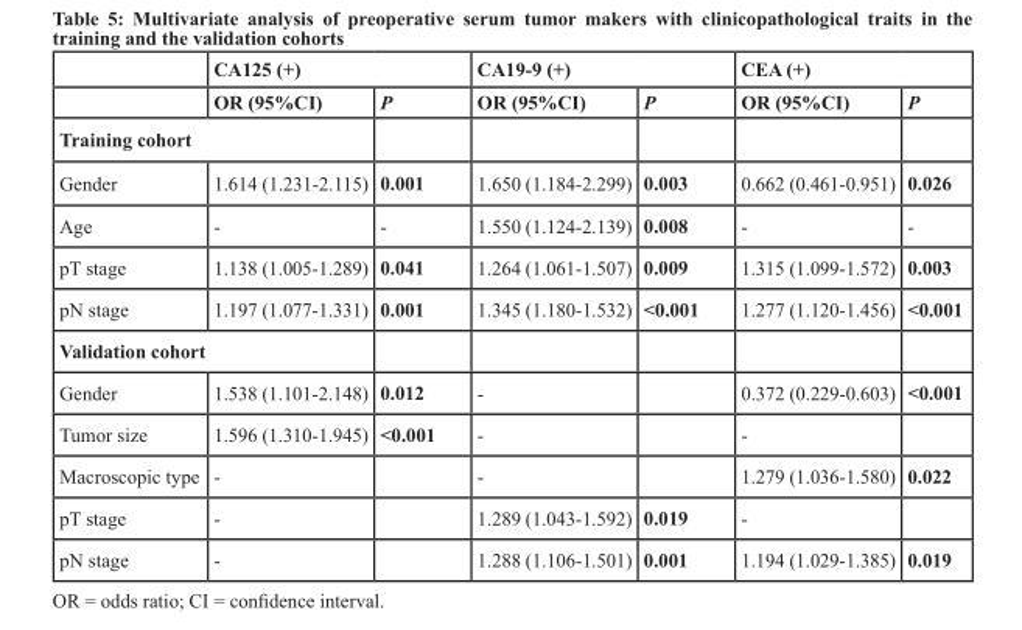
<table><thead><tr><td rowspan="2"></td><td colspan="2">cA125 (+)</td><td colspan="2">cA19-9 (+)</td><td colspan="2">cEA (+)</td></tr><tr><td>Or (95%cI)</td><td>P</td><td>Or (95%cI)</td><td>P</td><td>Or (95%cI)</td><td>P</td></tr></thead><tbody><tr><td colspan="7">training cohort</td></tr><tr><td>Gender</td><td>1.614 (1.231-2.115)</td><td>0.001</td><td>1.650 (1.184-2.299)</td><td>0.003</td><td>0.662 (0.461-0.951)</td><td>0.026</td></tr><tr><td>Age</td><td>-</td><td>-</td><td>1.550 (1.124-2.139)</td><td>0.008</td><td>-</td><td>-</td></tr><tr><td>pT stage</td><td>1.138 (1.005-1.289)</td><td>0.041</td><td>1.264 (1.061-1.507)</td><td>0.009</td><td>1.315 (1.099-1.572)</td><td>0.003</td></tr><tr><td>pN stage</td><td>1.197 (1.077-1.331)</td><td>0.001</td><td>1.345 (1.180-1.532)</td><td>&lt;0.001</td><td>1.277 (1.120-1.456)</td><td>&lt;0.001</td></tr><tr><td colspan="7">Validation cohort</td></tr><tr><td>Gender</td><td>1.538 (1.101-2.148)</td><td>0.012</td><td>-</td><td></td><td>0.372 (0.229-0.603)</td><td>&lt;0.001</td></tr><tr><td>Tumor size</td><td>1.596 (1.310-1.945)</td><td>&lt;0.001</td><td>-</td><td></td><td>-</td><td></td></tr><tr><td>Macroscopic type</td><td>-</td><td></td><td>-</td><td></td><td>1.279 (1.036-1.580)</td><td>0.022</td></tr><tr><td>pT stage</td><td>-</td><td></td><td>1.289 (1.043-1.592)</td><td>0.019</td><td>-</td><td></td></tr><tr><td>pN stage</td><td>-</td><td></td><td>1.288 (1.106-1.501)</td><td>0.001</td><td>1.194 (1.029-1.385)</td><td>0.019</td></tr></tbody></table>